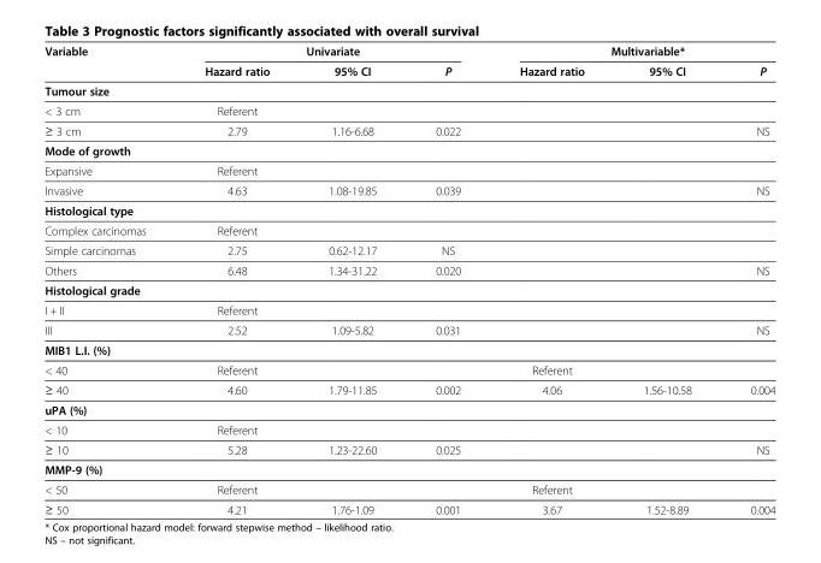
<table><thead><tr><td rowspan="2">Variable</td><td colspan="3">Univariate</td><td colspan="3">Multivariable*</td></tr><tr><td>Hazard ratio</td><td>95% CI</td><td>P</td><td>Hazard ratio</td><td>95% CI</td><td>P</td></tr></thead><tbody><tr><td colspan="7">Tumour size</td></tr><tr><td>&lt; 3 cm</td><td>Referent</td><td></td><td></td><td></td><td></td><td></td></tr><tr><td>≥ 3 cm</td><td>2.79</td><td>1.16-6.68</td><td>0.022</td><td></td><td></td><td>NS</td></tr><tr><td colspan="7">Mode of growth</td></tr><tr><td>Expansive</td><td>Referent</td><td></td><td></td><td></td><td></td><td></td></tr><tr><td>Invasive</td><td>4.63</td><td>1.08-19.85</td><td>0.039</td><td></td><td></td><td>NS</td></tr><tr><td colspan="7">Histological type</td></tr><tr><td>Complex carcinomas</td><td>Referent</td><td></td><td></td><td></td><td></td><td></td></tr><tr><td>Simple carcinomas</td><td>2.75</td><td>0.62-12.17</td><td>NS</td><td></td><td></td><td></td></tr><tr><td>Others</td><td>6.48</td><td>1.34-31.22</td><td>0.020</td><td></td><td></td><td>NS</td></tr><tr><td colspan="7">Histological grade</td></tr><tr><td>I + II</td><td>Referent</td><td></td><td></td><td></td><td></td><td></td></tr><tr><td>III</td><td>2.52</td><td>1.09-5.82</td><td>0.031</td><td></td><td></td><td>NS</td></tr><tr><td colspan="7">MIB1 L.I. (%)</td></tr><tr><td>&lt; 40</td><td>Referent</td><td></td><td></td><td>Referent</td><td></td><td></td></tr><tr><td>≥ 40</td><td>4.60</td><td>1.79-11.85</td><td>0.002</td><td>4.06</td><td>1.56-10.58</td><td>0.004</td></tr><tr><td colspan="7">uPA (%)</td></tr><tr><td>&lt; 10</td><td>Referent</td><td></td><td></td><td></td><td></td><td></td></tr><tr><td>≥ 10</td><td>5.28</td><td>1.23-22.60</td><td>0.025</td><td></td><td></td><td>NS</td></tr><tr><td colspan="7">MMP-9 (%)</td></tr><tr><td>&lt; 50</td><td>Referent</td><td></td><td></td><td>Referent</td><td></td><td></td></tr><tr><td>≥ 50</td><td>4.21</td><td>1.76-1.09</td><td>0.001</td><td>3.67</td><td>1.52-8.89</td><td>0.004</td></tr></tbody></table>